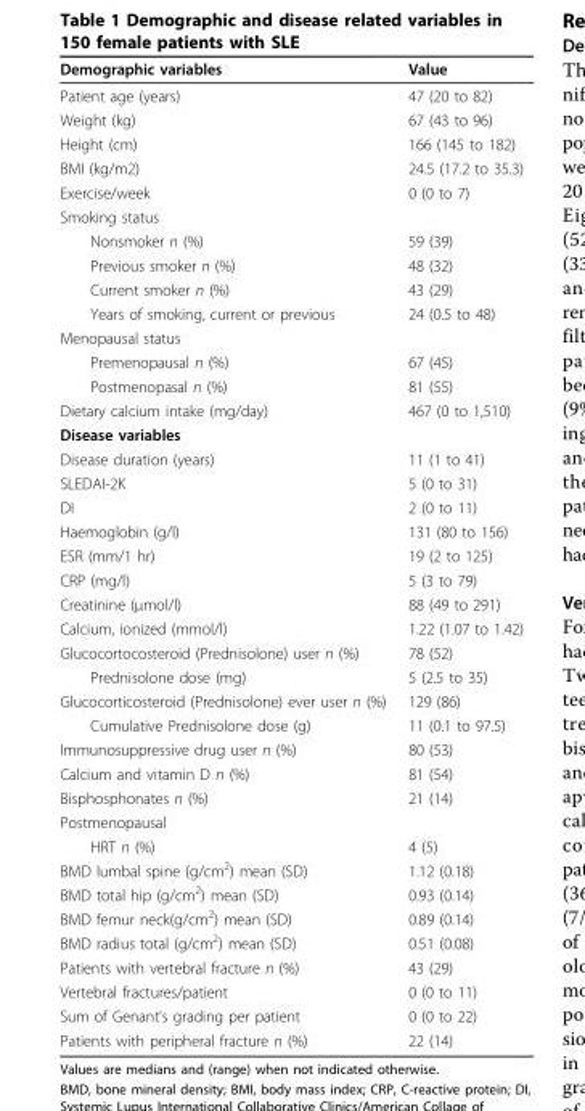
<table><thead><tr><td>Demographic variables</td><td>Value</td></tr></thead><tbody><tr><td>Patient age (years)</td><td>47 (20 to 82)</td></tr><tr><td>Weight (kg)</td><td>67 (43 to 96)</td></tr><tr><td>Height (cm)</td><td>166 (145 to 182)</td></tr><tr><td>BMI (kg/m2)</td><td>24.5 (17.2 to 35.3)</td></tr><tr><td>Exercise/week</td><td>0 (0 to 7)</td></tr><tr><td colspan="2">Smoking status</td></tr><tr><td>Nonsmoker n (%)</td><td>59 (39)</td></tr><tr><td>Previous smoker n (%)</td><td>48 (32)</td></tr><tr><td>Current smoker n (%)</td><td>43 (29)</td></tr><tr><td>Years of smoking, current or previous</td><td>24 (0.5 to 48)</td></tr><tr><td colspan="2">Menopausal status</td></tr><tr><td>Premenopausal n (%)</td><td>67 (45)</td></tr><tr><td>Postmenopasal n (%)</td><td>81 (55)</td></tr><tr><td>Dietary calcium intake (mg/day)</td><td>467 (0 to 1,510)</td></tr><tr><td colspan="2">Disease variables</td></tr><tr><td>Disease duration (years)</td><td>11 (1 to 41)</td></tr><tr><td>SLEDAI-2K</td><td>5 (0 to 31)</td></tr><tr><td>DI</td><td>2 (0 to 11)</td></tr><tr><td>Haemoglobin (g/l)</td><td>131 (80 to 156)</td></tr><tr><td>ESR (mm/1 hr)</td><td>19 (2 to 125)</td></tr><tr><td>CRP (mg/l)</td><td>5 (3 to 79)</td></tr><tr><td>Creatinine (μmol/l)</td><td>88 (49 to 291)</td></tr><tr><td>Calcium, ionized (mmol/l)</td><td>1.22 (1.07 to 1.42)</td></tr><tr><td>Glucocortocosteroid (Prednisolone) user n (%)</td><td>78 (52)</td></tr><tr><td>Prednisolone dose (mg)</td><td>5 (2.5 to 35)</td></tr><tr><td>Glucocorticosteroid (Prednisolone) ever user n (%)</td><td>129 (86)</td></tr><tr><td>Cumulative Prednisolone dose (g)</td><td>11 (0.1 to 97.5)</td></tr><tr><td>Immunosuppressive drug user n (%)</td><td>80 (53)</td></tr><tr><td>Calcium and vitamin D n (%)</td><td>81 (54)</td></tr><tr><td>Bisphosphonates n (%)</td><td>21 (14)</td></tr><tr><td colspan="2">Postmenopausal</td></tr><tr><td>HRT n (%)</td><td>4 (5)</td></tr><tr><td>BMD lumbal spine (g/cm<sup>2</sup>) mean (SD)</td><td>1.12 (0.18)</td></tr><tr><td>BMD total hip (g/cm<sup>2</sup>) mean (SD)</td><td>0.93 (0.14)</td></tr><tr><td>BMD femur neck(g/cm<sup>2</sup>) mean (SD)</td><td>0.89 (0.14)</td></tr><tr><td>BMD radius total (g/cm<sup>2</sup>) mean (SD)</td><td>0.51 (0.08)</td></tr><tr><td>Patients with vertebral fracture n (%)</td><td>43 (29)</td></tr><tr><td>Vertebral fractures/patient</td><td>0 (0 to 11)</td></tr><tr><td>Sum of Genant’s grading per patient</td><td>0 (0 to 22)</td></tr><tr><td>Patients with peripheral fracture n (%)</td><td>22 (14)</td></tr></tbody></table>